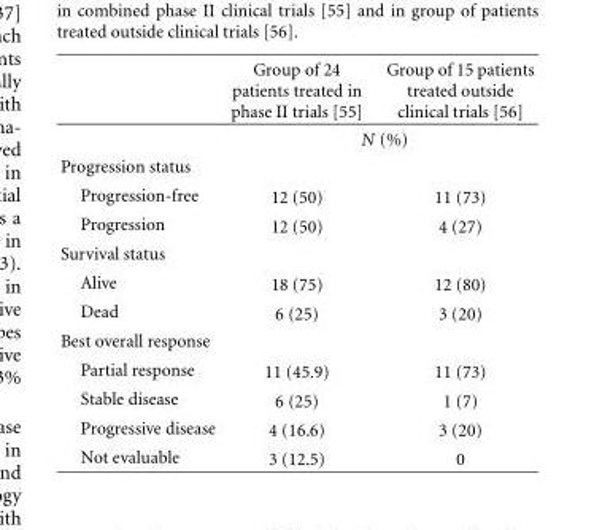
<table><thead><tr><td></td><td>Group of 24 patients treated in phase II trials [55]</td><td>Group of 15 patients treated outside clinical trials [56]</td></tr></thead><tbody><tr><td></td><td colspan="2">N (%)</td></tr><tr><td colspan="3">Progression status</td></tr><tr><td>Progression-free</td><td>12 (50)</td><td>11 (73)</td></tr><tr><td>Progression</td><td>12 (50)</td><td>4 (27)</td></tr><tr><td colspan="3">Survival status</td></tr><tr><td>Alive</td><td>18 (75)</td><td>12 (80)</td></tr><tr><td>Dead</td><td>6 (25)</td><td>3 (20)</td></tr><tr><td colspan="3">Best overall response</td></tr><tr><td>Partial response</td><td>11 (45.9)</td><td>11 (73)</td></tr><tr><td>Stable disease</td><td>6 (25)</td><td>1 (7)</td></tr><tr><td>Progressive disease</td><td>4 (16.6)</td><td>3 (20)</td></tr><tr><td>Not evaluable</td><td>3 (12.5)</td><td>0</td></tr></tbody></table>